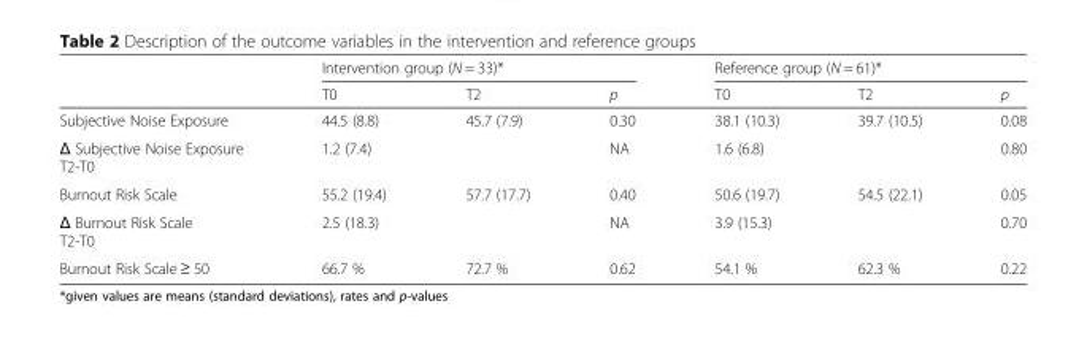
<table><thead><tr><td rowspan="2"></td><td colspan="3">Intervention group (N = 33)*</td><td colspan="3">Reference group (N = 61)*</td></tr><tr><td>T0</td><td>T2</td><td>p</td><td>T0</td><td>T2</td><td>p</td></tr></thead><tbody><tr><td>Subjective Noise Exposure</td><td>44.5 (8.8)</td><td>45.7 (7.9)</td><td>0.30</td><td>38.1 (10.3)</td><td>39.7 (10.5)</td><td>0.08</td></tr><tr><td>Δ Subjective Noise Exposure T2-T0</td><td colspan="2">1.2 (7.4)</td><td>NA</td><td colspan="2">1.6 (6.8)</td><td>0.80</td></tr><tr><td>Burnout Risk Scale</td><td>55.2 (19.4)</td><td>57.7 (17.7)</td><td>0.40</td><td>50.6 (19.7)</td><td>54.5 (22.1)</td><td>0.05</td></tr><tr><td>Δ Burnout Risk Scale T2-T0</td><td colspan="2">2.5 (18.3)</td><td>NA</td><td colspan="2">3.9 (15.3)</td><td>0.70</td></tr><tr><td>Burnout Risk Scale ≥ 50</td><td>66.7 %</td><td>72.7 %</td><td>0.62</td><td>54.1 %</td><td>62.3 %</td><td>0.22</td></tr></tbody></table>